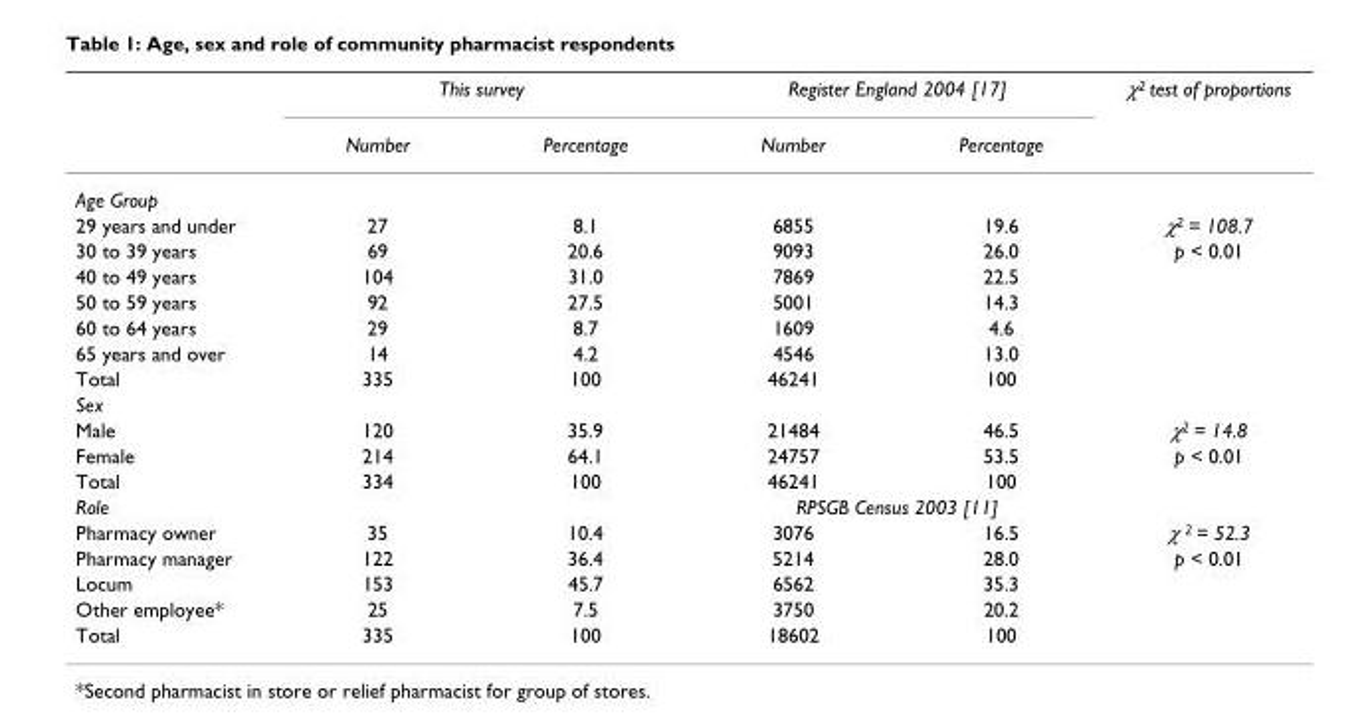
<table><thead><tr><td rowspan="2"></td><td colspan="2">This survey</td><td colspan="2">Register England 2004 [17]</td><td rowspan="2">χ2 test of proportions</td></tr><tr><td>Number</td><td>Percentage</td><td>Number</td><td>Percentage</td></tr></thead><tbody><tr><td colspan="6">Age Group</td></tr><tr><td>29 years and under</td><td>27</td><td>8.1</td><td>6855</td><td>19.6</td><td>χ2 = 108.7</td></tr><tr><td>30 to 39 years</td><td>69</td><td>20.6</td><td>9093</td><td>26.0</td><td>p &lt; 0.01</td></tr><tr><td>40 to 49 years</td><td>104</td><td>31.0</td><td>7869</td><td>22.5</td><td></td></tr><tr><td>50 to 59 years</td><td>92</td><td>27.5</td><td>5001</td><td>14.3</td><td></td></tr><tr><td>60 to 64 years</td><td>29</td><td>8.7</td><td>1609</td><td>4.6</td><td></td></tr><tr><td>65 years and over</td><td>14</td><td>4.2</td><td>4546</td><td>13.0</td><td></td></tr><tr><td>Total</td><td>335</td><td>100</td><td>46241</td><td>100</td><td></td></tr><tr><td colspan="6">Sex</td></tr><tr><td>Male</td><td>120</td><td>35.9</td><td>21484</td><td>46.5</td><td>χ2 = 14.8</td></tr><tr><td>Female</td><td>214</td><td>64.1</td><td>24757</td><td>53.5</td><td>p &lt; 0.01</td></tr><tr><td>Total</td><td>334</td><td>100</td><td>46241</td><td>100</td><td></td></tr><tr><td>Role</td><td></td><td></td><td colspan="2">RPSGB Census 2003 [11]</td><td></td></tr><tr><td>Pharmacy owner</td><td>35</td><td>10.4</td><td>3076</td><td>16.5</td><td>χ 2 = 52.3</td></tr><tr><td>Pharmacy manager</td><td>122</td><td>36.4</td><td>5214</td><td>28.0</td><td>p &lt; 0.01</td></tr><tr><td>Locum</td><td>153</td><td>45.7</td><td>6562</td><td>35.3</td><td></td></tr><tr><td>Other employee*</td><td>25</td><td>7.5</td><td>3750</td><td>20.2</td><td></td></tr><tr><td>Total</td><td>335</td><td>100</td><td>18602</td><td>100</td><td></td></tr></tbody></table>